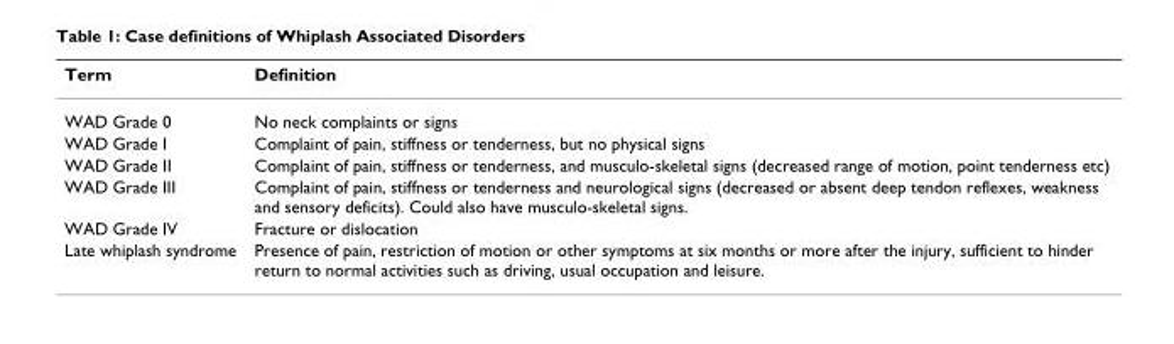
<table><thead><tr><td>Term</td><td>Definition</td></tr></thead><tbody><tr><td>WAD Grade 0</td><td>No neck complaints or signs</td></tr><tr><td>WAD Grade I</td><td>Complaint of pain, stiffness or tenderness, but no physical signs</td></tr><tr><td>WAD Grade II</td><td>Complaint of pain, stiffness or tenderness, and musculo-skeletal signs (decreased range of motion, point tenderness etc)</td></tr><tr><td>WAD Grade III</td><td>Complaint of pain, stiffness or tenderness and neurological signs (decreased or absent deep tendon reflexes, weakness and sensory deficits). Could also have musculo-skeletal signs.</td></tr><tr><td>WAD Grade IV</td><td>Fracture or dislocation</td></tr><tr><td>Late whiplash syndrome</td><td>Presence of pain, restriction of motion or other symptoms at six months or more after the injury, sufficient to hinder return to normal activities such as driving, usual occupation and leisure.</td></tr></tbody></table>